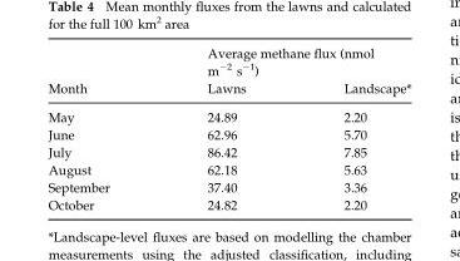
<table><thead><tr><td rowspan="2">Month</td><td colspan="2">Average methane flux (nmol m<sup>−2</sup> s<sup>−1</sup>)</td></tr><tr><td>Lawns</td><td>Landscape*</td></tr></thead><tbody><tr><td>May</td><td>24.89</td><td>2.20</td></tr><tr><td>June</td><td>62.96</td><td>5.70</td></tr><tr><td>July</td><td>86.42</td><td>7.85</td></tr><tr><td>August</td><td>62.18</td><td>5.63</td></tr><tr><td>September</td><td>37.40</td><td>3.36</td></tr><tr><td>October</td><td>24.82</td><td>2.20</td></tr></tbody></table>